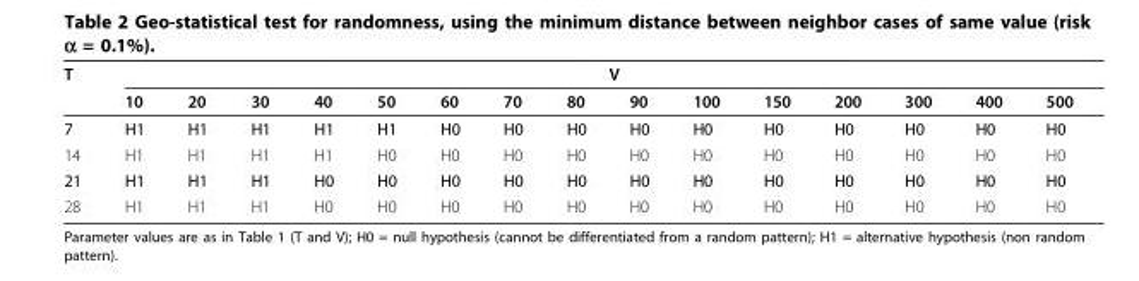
<table><thead><tr><td rowspan="2">T</td><td colspan="15">V</td></tr><tr><td>10</td><td>20</td><td>30</td><td>40</td><td>50</td><td>60</td><td>70</td><td>80</td><td>90</td><td>100</td><td>150</td><td>200</td><td>300</td><td>400</td><td>500</td></tr></thead><tbody><tr><td>7</td><td>H1</td><td>H1</td><td>H1</td><td>H1</td><td>H1</td><td>H0</td><td>H0</td><td>H0</td><td>H0</td><td>H0</td><td>H0</td><td>H0</td><td>H0</td><td>H0</td><td>H0</td></tr><tr><td>14</td><td>H1</td><td>H1</td><td>H1</td><td>H1</td><td>H0</td><td>H0</td><td>H0</td><td>H0</td><td>H0</td><td>H0</td><td>H0</td><td>H0</td><td>H0</td><td>H0</td><td>H0</td></tr><tr><td>21</td><td>H1</td><td>H1</td><td>H1</td><td>H0</td><td>H0</td><td>H0</td><td>H0</td><td>H0</td><td>H0</td><td>H0</td><td>H0</td><td>H0</td><td>H0</td><td>H0</td><td>H0</td></tr><tr><td>28</td><td>H1</td><td>H1</td><td>H1</td><td>H0</td><td>H0</td><td>H0</td><td>H0</td><td>H0</td><td>H0</td><td>H0</td><td>H0</td><td>H0</td><td>H0</td><td>H0</td><td>H0</td></tr></tbody></table>